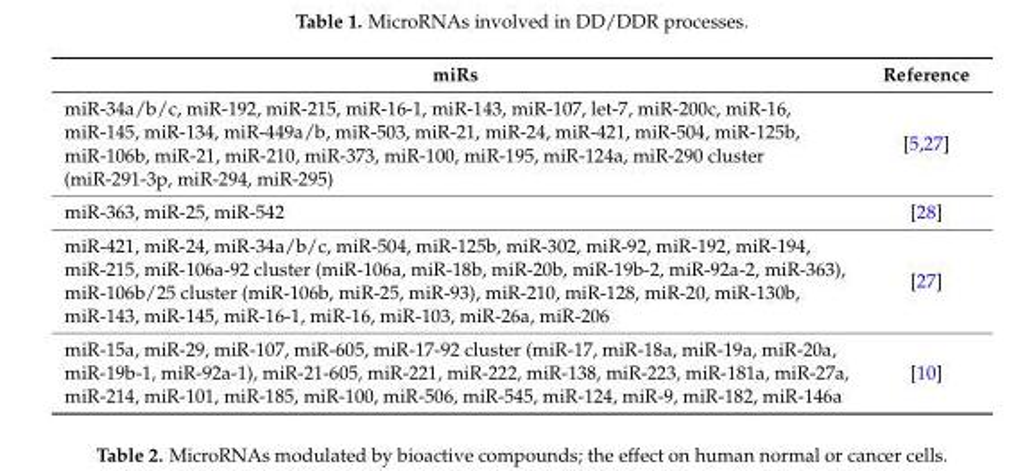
<table><thead><tr><td>miRs</td><td>Reference</td></tr></thead><tbody><tr><td>miR-34a/b/c, miR-192, miR-215, miR-16-1, miR-143, miR-107, let-7, miR-200c, miR-16, miR-145, miR-134, miR-449a/b, miR-503, miR-21, miR-24, miR-421, miR-504, miR-125b, miR-106b, miR-21, miR-210, miR-373, miR-100, miR-195, miR-124a, miR-290 cluster (miR-291-3p, miR-294, miR-295)</td><td>[5,27]</td></tr><tr><td>miR-363, miR-25, miR-542</td><td>[28]</td></tr><tr><td>miR-421, miR-24, miR-34a/b/c, miR-504, miR-125b, miR-302, miR-92, miR-192, miR-194, miR-215, miR-106a-92 cluster (miR-106a, miR-18b, miR-20b, miR-19b-2, miR-92a-2, miR-363), miR-106b/25 cluster (miR-106b, miR-25, miR-93), miR-210, miR-128, miR-20, miR-130b, miR-143, miR-145, miR-16-1, miR-16, miR-103, miR-26a, miR-206</td><td>[27]</td></tr><tr><td>miR-15a, miR-29, miR-107, miR-605, miR-17-92 cluster (miR-17, miR-18a, miR-19a, miR-20a, miR-19b-1, miR-92a-1), miR-21-605, miR-221, miR-222, miR-138, miR-223, miR-181a, miR-27a, miR-214, miR-101, miR-185, miR-100, miR-506, miR-545, miR-124, miR-9, miR-182, miR-146a</td><td>[10]</td></tr></tbody></table>